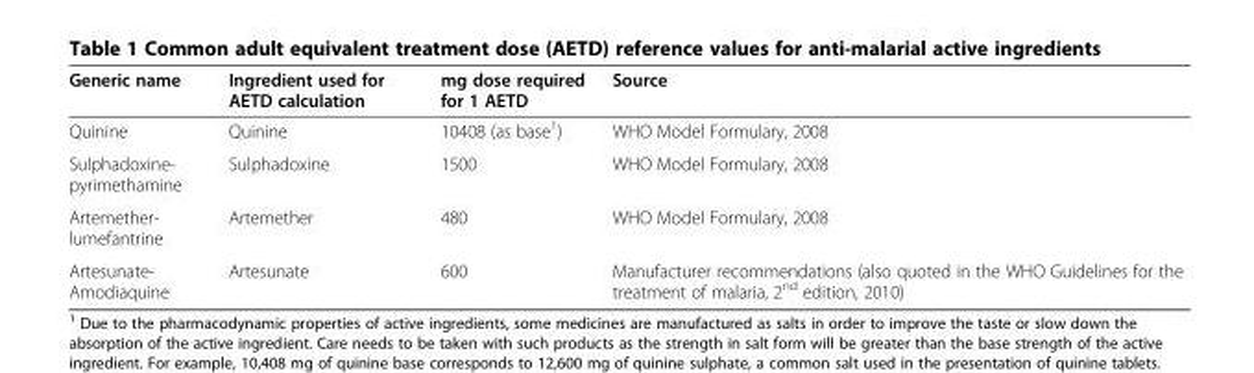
<table><thead><tr><td>Generic name</td><td>Ingredient used for AETD calculation</td><td>mg dose required for 1 AETD</td><td>Source</td></tr></thead><tbody><tr><td>Quinine</td><td>Quinine</td><td>10408 (as base<sup>1</sup>)</td><td>WHO Model Formulary, 2008</td></tr><tr><td>Sulphadoxine- pyrimethamine</td><td>Sulphadoxine</td><td>1500</td><td>WHO Model Formulary, 2008</td></tr><tr><td>Artemether- lumefantrine</td><td>Artemether</td><td>480</td><td>WHO Model Formulary, 2008</td></tr><tr><td>Artesunate- Amodiaquine</td><td>Artesunate</td><td>600</td><td>Manufacturer recommendations (also quoted in the WHO Guidelines for the treatment of malaria, 2<sup>nd</sup> edition, 2010)</td></tr></tbody></table>